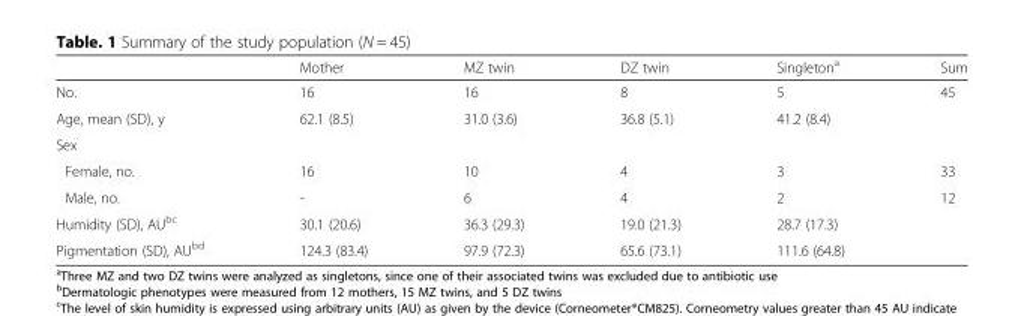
<table><thead><tr><td></td><td>Mother</td><td>MZ twin</td><td>DZ twin</td><td>Singleton<sup>a</sup></td><td>Sum</td></tr></thead><tbody><tr><td>No.</td><td>16</td><td>16</td><td>8</td><td>5</td><td>45</td></tr><tr><td>Age, mean (SD), y</td><td>62.1 (8.5)</td><td>31.0 (3.6)</td><td>36.8 (5.1)</td><td>41.2 (8.4)</td><td></td></tr><tr><td colspan="6">Sex</td></tr><tr><td>Female, no.</td><td>16</td><td>10</td><td>4</td><td>3</td><td>33</td></tr><tr><td>Male, no.</td><td>-</td><td>6</td><td>4</td><td>2</td><td>12</td></tr><tr><td>Humidity (SD), AU<sup>bc</sup></td><td>30.1 (20.6)</td><td>36.3 (29.3)</td><td>19.0 (21.3)</td><td>28.7 (17.3)</td><td></td></tr><tr><td>Pigmentation (SD), AU<sup>bd</sup></td><td>124.3 (83.4)</td><td>97.9 (72.3)</td><td>65.6 (73.1)</td><td>111.6 (64.8)</td><td></td></tr></tbody></table>